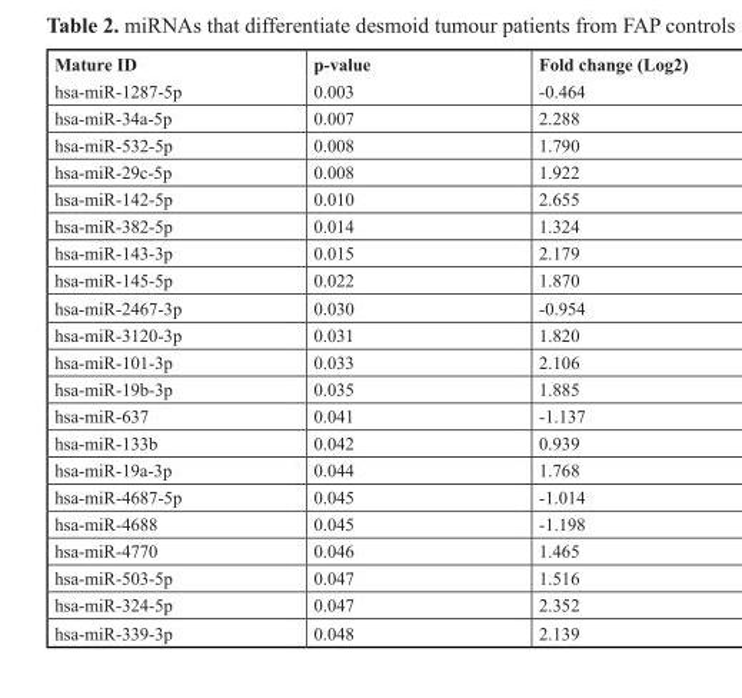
<table><thead><tr><td>Mature ID</td><td>p-value</td><td>Fold change (Log2)</td></tr></thead><tbody><tr><td>hsa-miR-1287-5p</td><td>0.003</td><td>-0.464</td></tr><tr><td>hsa-miR-34a-5p</td><td>0.007</td><td>2.288</td></tr><tr><td>hsa-miR-532-5p</td><td>0.008</td><td>1.790</td></tr><tr><td>hsa-miR-29c-5p</td><td>0.008</td><td>1.922</td></tr><tr><td>hsa-miR-142-5p</td><td>0.010</td><td>2.655</td></tr><tr><td>hsa-miR-382-5p</td><td>0.014</td><td>1.324</td></tr><tr><td>hsa-miR-143-3p</td><td>0.015</td><td>2.179</td></tr><tr><td>hsa-miR-145-5p</td><td>0.022</td><td>1.870</td></tr><tr><td>hsa-miR-2467-3p</td><td>0.030</td><td>-0.954</td></tr><tr><td>hsa-miR-3120-3p</td><td>0.031</td><td>1.820</td></tr><tr><td>hsa-miR-101-3p</td><td>0.033</td><td>2.106</td></tr><tr><td>hsa-miR-19b-3p</td><td>0.035</td><td>1.885</td></tr><tr><td>hsa-miR-637</td><td>0.041</td><td>-1.137</td></tr><tr><td>hsa-miR-133b</td><td>0.042</td><td>0.939</td></tr><tr><td>hsa-miR-19a-3p</td><td>0.044</td><td>1.768</td></tr><tr><td>hsa-miR-4687-5p</td><td>0.045</td><td>-1.014</td></tr><tr><td>hsa-miR-4688</td><td>0.045</td><td>-1.198</td></tr><tr><td>hsa-miR-4770</td><td>0.046</td><td>1.465</td></tr><tr><td>hsa-miR-503-5p</td><td>0.047</td><td>1.516</td></tr><tr><td>hsa-miR-324-5p</td><td>0.047</td><td>2.352</td></tr><tr><td>hsa-miR-339-3p</td><td>0.048</td><td>2.139</td></tr></tbody></table>